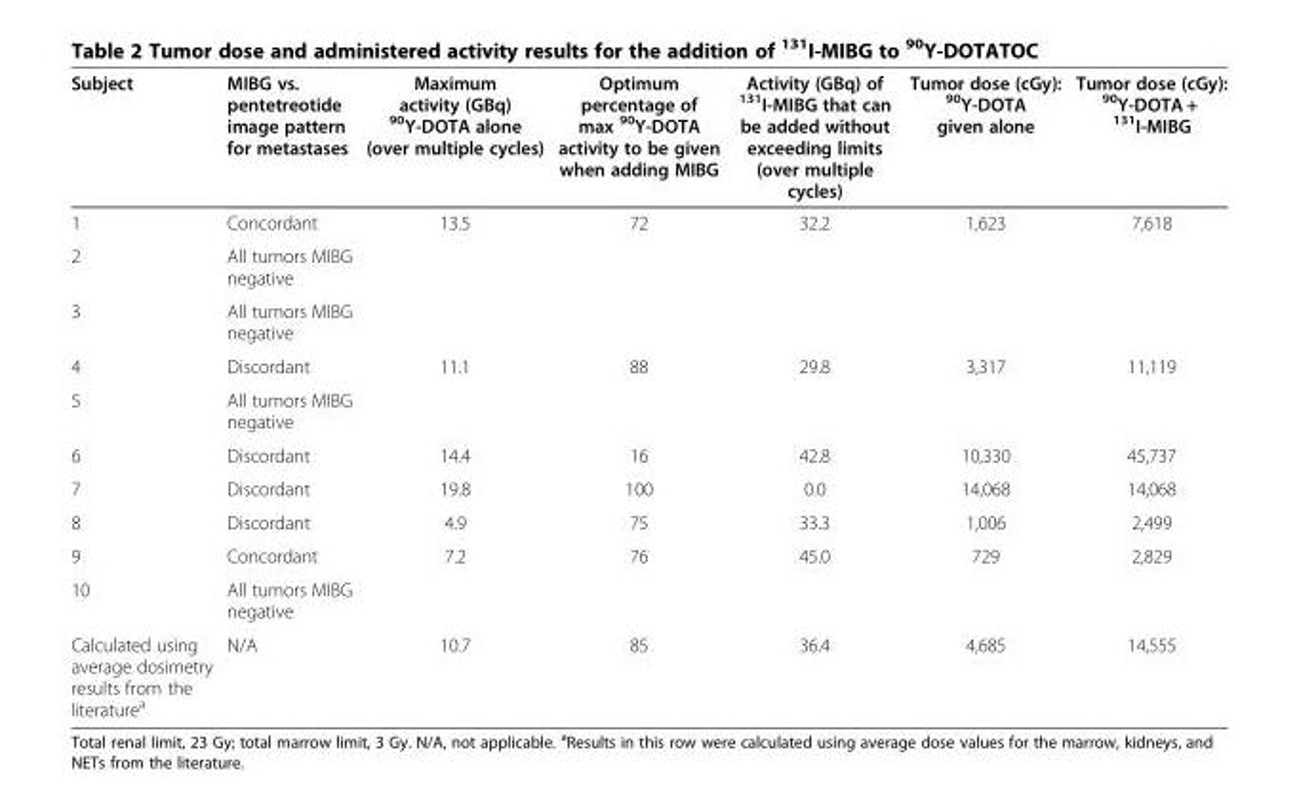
<table><thead><tr><td>Subject</td><td>MIBG vs. pentetreotide image pattern for metastases</td><td>Maximum activity (GBq) <sup>90</sup>Y-DOTA alone (over multiple cycles)</td><td>Optimum percentage of max <sup>90</sup>Y-DOTA activity to be given when adding MIBG</td><td>Activity (GBq) of <sup>131</sup>I-MIBG that can be added without exceeding limits (over multiple cycles)</td><td>Tumor dose (cGy): <sup>90</sup>Y-DOTA given alone</td><td>Tumor dose (cGy): <sup>90</sup>Y-DOTA + <sup>131</sup>I-MIBG</td></tr></thead><tbody><tr><td>1</td><td>Concordant</td><td>13.5</td><td>72</td><td>32.2</td><td>1,623</td><td>7,618</td></tr><tr><td>2</td><td>All tumors MIBG negative</td><td></td><td></td><td></td><td></td><td></td></tr><tr><td>3</td><td>All tumors MIBG negative</td><td></td><td></td><td></td><td></td><td></td></tr><tr><td>4</td><td>Discordant</td><td>11.1</td><td>88</td><td>29.8</td><td>3,317</td><td>11,119</td></tr><tr><td>5</td><td>All tumors MIBG negative</td><td></td><td></td><td></td><td></td><td></td></tr><tr><td>6</td><td>Discordant</td><td>14.4</td><td>16</td><td>42.8</td><td>10,330</td><td>45,737</td></tr><tr><td>7</td><td>Discordant</td><td>19.8</td><td>100</td><td>0.0</td><td>14,068</td><td>14,068</td></tr><tr><td>8</td><td>Discordant</td><td>4.9</td><td>75</td><td>33.3</td><td>1,006</td><td>2,499</td></tr><tr><td>9</td><td>Concordant</td><td>7.2</td><td>76</td><td>45.0</td><td>729</td><td>2,829</td></tr><tr><td>10</td><td>All tumors MIBG negative</td><td></td><td></td><td></td><td></td><td></td></tr><tr><td>Calculated using average dosimetry results from the literature<sup>a</sup></td><td>N/A</td><td>10.7</td><td>85</td><td>36.4</td><td>4,685</td><td>14,555</td></tr></tbody></table>